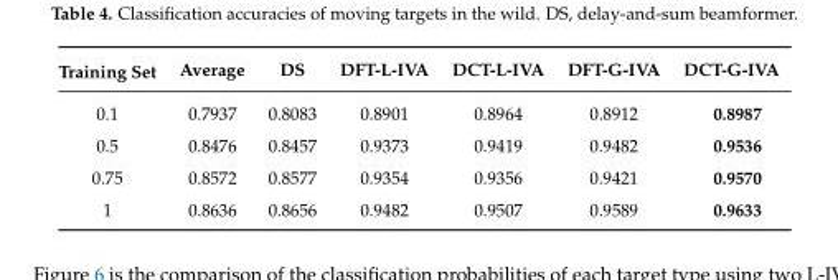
<table><thead><tr><td>Training Set</td><td>Average</td><td>DS</td><td>DFT-L-IVA</td><td>DCT-L-IVA</td><td>DFT-G-IVA</td><td>DCT-G-IVA</td></tr></thead><tbody><tr><td>0.1</td><td>0.7937</td><td>0.8083</td><td>0.8901</td><td>0.8964</td><td>0.8912</td><td>0.8987</td></tr><tr><td>0.5</td><td>0.8476</td><td>0.8457</td><td>0.9373</td><td>0.9419</td><td>0.9482</td><td>0.9536</td></tr><tr><td>0.75</td><td>0.8572</td><td>0.8577</td><td>0.9354</td><td>0.9356</td><td>0.9421</td><td>0.9570</td></tr><tr><td>1</td><td>0.8636</td><td>0.8656</td><td>0.9482</td><td>0.9507</td><td>0.9589</td><td>0.9633</td></tr></tbody></table>